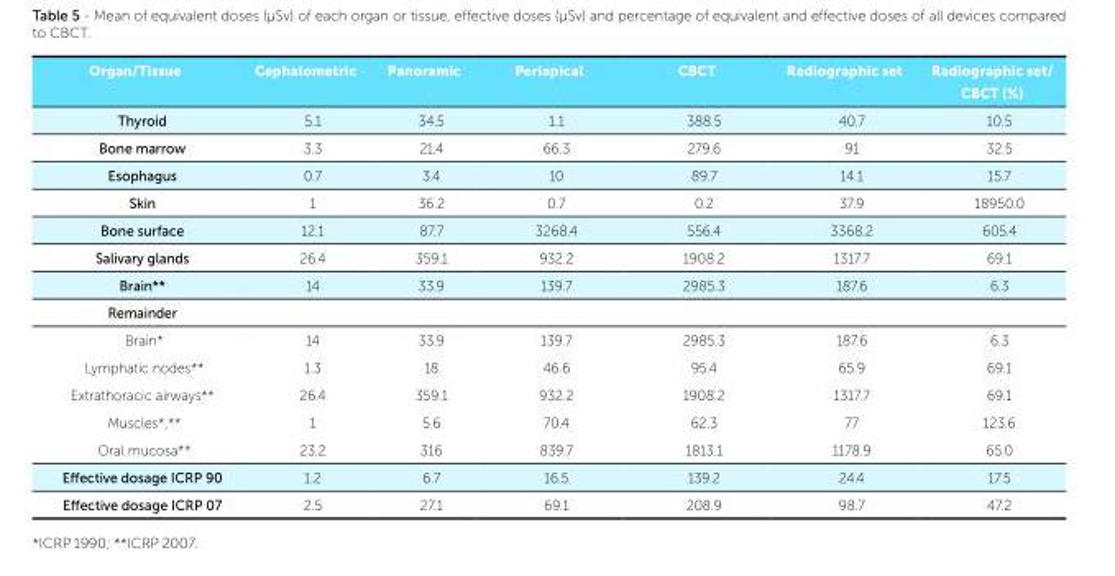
<table><tbody><tr><td>Organ/Tissue</td><td>Cephalometric</td><td>Panoramic</td><td>Periapical</td><td>CBCT</td><td>Radiographic set</td><td>Radiographic set/ CBCT (%)</td></tr><tr><td>Thyroid</td><td>5.1</td><td>34.5</td><td>1.1</td><td>388.5</td><td>40.7</td><td>10.5</td></tr><tr><td>Bone marrow</td><td>3.3</td><td>21.4</td><td>66.3</td><td>279.6</td><td>91</td><td>32.5</td></tr><tr><td>Esophagus</td><td>0.7</td><td>3.4</td><td>10</td><td>89.7</td><td>14.1</td><td>15.7</td></tr><tr><td>Skin</td><td>1</td><td>36.2</td><td>0.7</td><td>0.2</td><td>37.9</td><td>18950.0</td></tr><tr><td>Bone surface</td><td>12.1</td><td>87.7</td><td>3268.4</td><td>556.4</td><td>3368.2</td><td>605.4</td></tr><tr><td>Salivary glands</td><td>26.4</td><td>359.1</td><td>932.2</td><td>1908.2</td><td>1317.7</td><td>69.1</td></tr><tr><td>Brain**</td><td>14</td><td>33.9</td><td>139.7</td><td>2985.3</td><td>187.6</td><td>6.3</td></tr><tr><td colspan="7">Remainder</td></tr><tr><td>Brain*</td><td>14</td><td>33.9</td><td>139.7</td><td>2985.3</td><td>187.6</td><td>6.3</td></tr><tr><td>Lymphatic nodes**</td><td>1.3</td><td>18</td><td>46.6</td><td>95.4</td><td>65.9</td><td>69.1</td></tr><tr><td>Extrathoracic airways**</td><td>26.4</td><td>359.1</td><td>932.2</td><td>1908.2</td><td>1317.7</td><td>69.1</td></tr><tr><td>Muscles*,**</td><td>1</td><td>5.6</td><td>70.4</td><td>62.3</td><td>77</td><td>123.6</td></tr><tr><td>Oral mucosa**</td><td>23.2</td><td>316</td><td>839.7</td><td>1813.1</td><td>1178.9</td><td>65.0</td></tr><tr><td>Effective dosage ICRP 90</td><td>1.2</td><td>6.7</td><td>16.5</td><td>139.2</td><td>24.4</td><td>17.5</td></tr><tr><td>Effective dosage ICRP 07</td><td>2.5</td><td>27.1</td><td>69.1</td><td>208.9</td><td>98.7</td><td>47.2</td></tr></tbody></table>